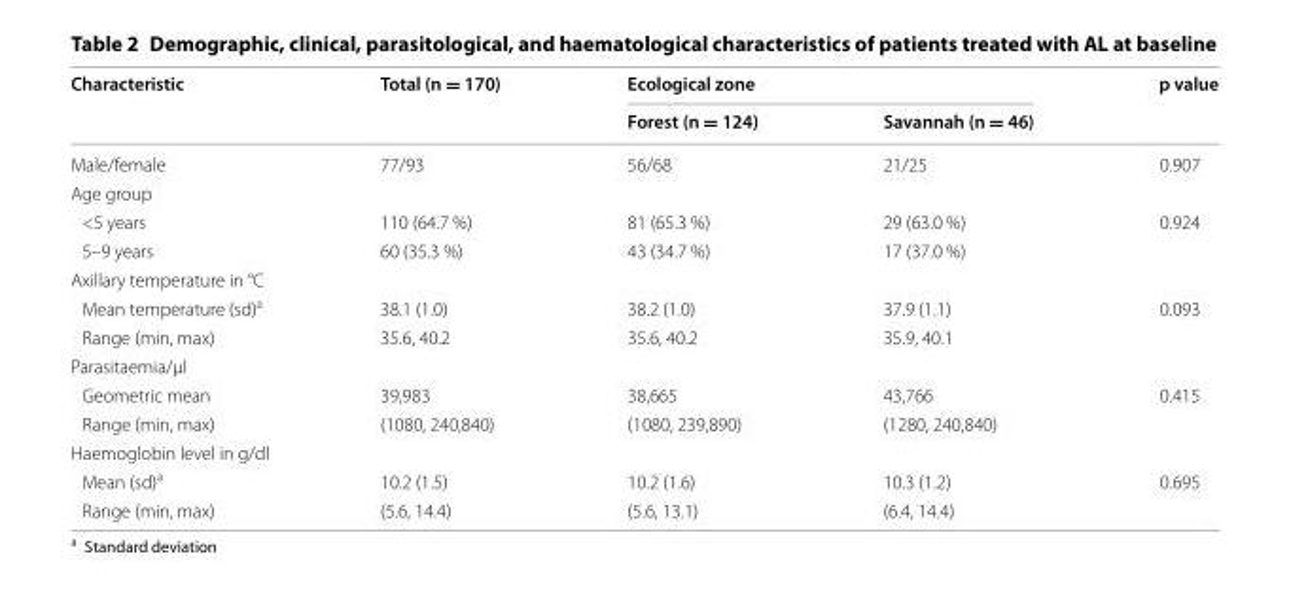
<table><thead><tr><td rowspan="2">Characteristic</td><td rowspan="2">Total (n = 170)</td><td colspan="2">Ecological zone</td><td rowspan="2">p value</td></tr><tr><td>Forest (n = 124)</td><td>Savannah (n = 46)</td></tr></thead><tbody><tr><td>Male/female</td><td>77/93</td><td>56/68</td><td>21/25</td><td>0.907</td></tr><tr><td colspan="5">Age group</td></tr><tr><td>&lt;5 years</td><td>110 (64.7 %)</td><td>81 (65.3 %)</td><td>29 (63.0 %)</td><td rowspan="2">0.924</td></tr><tr><td>5–9 years</td><td>60 (35.3 %)</td><td>43 (34.7 %)</td><td>17 (37.0 %)</td></tr><tr><td colspan="5">Axillary temperature in °C</td></tr><tr><td>Mean temperature (sd)<sup>a</sup></td><td>38.1 (1.0)</td><td>38.2 (1.0)</td><td>37.9 (1.1)</td><td rowspan="2">0.093</td></tr><tr><td>Range (min, max)</td><td>35.6, 40.2</td><td>35.6, 40.2</td><td>35.9, 40.1</td></tr><tr><td colspan="5">Parasitaemia/µl</td></tr><tr><td>Geometric mean</td><td>39,983</td><td>38,665</td><td>43,766</td><td rowspan="2">0.415</td></tr><tr><td>Range (min, max)</td><td>(1080, 240,840)</td><td>(1080, 239,890)</td><td>(1280, 240,840)</td></tr><tr><td colspan="5">Haemoglobin level in g/dl</td></tr><tr><td>Mean (sd)<sup>a</sup></td><td>10.2 (1.5)</td><td>10.2 (1.6)</td><td>10.3 (1.2)</td><td rowspan="2">0.695</td></tr><tr><td>Range (min, max)</td><td>(5.6, 14.4)</td><td>(5.6, 13.1)</td><td>(6.4, 14.4)</td></tr></tbody></table>